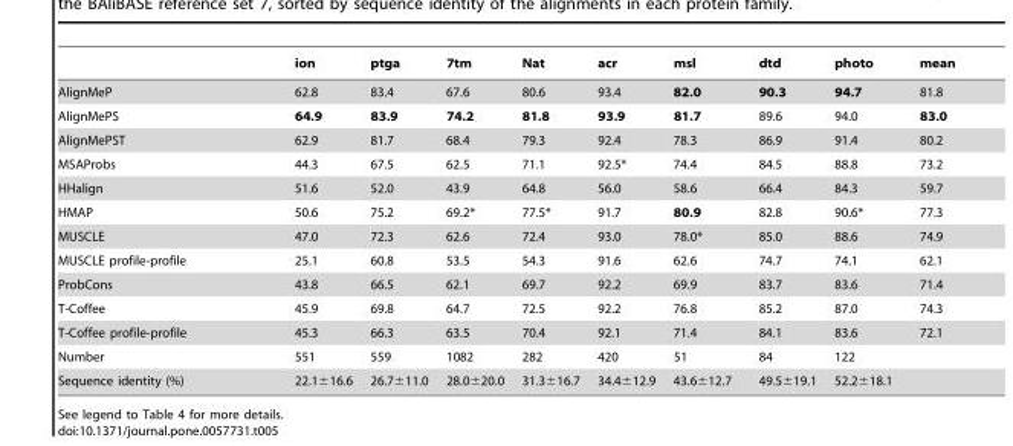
<table><thead><tr><td></td><td>ion</td><td>ptga</td><td>7tm</td><td>Nat</td><td>acr</td><td>msl</td><td>dtd</td><td>photo</td><td>mean</td></tr></thead><tbody><tr><td>AlignMeP</td><td>62.8</td><td>83.4</td><td>67.6</td><td>80.6</td><td>93.4</td><td>82.0</td><td>90.3</td><td>94.7</td><td>81.8</td></tr><tr><td>AlignMePS</td><td>64.9</td><td>83.9</td><td>74.2</td><td>81.8</td><td>93.9</td><td>81.7</td><td>89.6</td><td>94.0</td><td>83.0</td></tr><tr><td>AlignMePST</td><td>62.9</td><td>81.7</td><td>68.4</td><td>79.3</td><td>92.4</td><td>78.3</td><td>86.9</td><td>91.4</td><td>80.2</td></tr><tr><td>MSAProbs</td><td>44.3</td><td>67.5</td><td>62.5</td><td>71.1</td><td>92.5*</td><td>74.4</td><td>84.5</td><td>88.8</td><td>73.2</td></tr><tr><td>HHalign</td><td>51.6</td><td>52.0</td><td>43.9</td><td>64.8</td><td>56.0</td><td>58.6</td><td>66.4</td><td>84.3</td><td>59.7</td></tr><tr><td>HMAP</td><td>50.6</td><td>75.2</td><td>69.2*</td><td>77.5*</td><td>91.7</td><td>80.9</td><td>82.8</td><td>90.6*</td><td>77.3</td></tr><tr><td>MUSCLE</td><td>47.0</td><td>72.3</td><td>62.6</td><td>72.4</td><td>93.0</td><td>78.0*</td><td>85.0</td><td>88.6</td><td>74.9</td></tr><tr><td>MUSCLE profile-profile</td><td>25.1</td><td>60.8</td><td>53.5</td><td>54.3</td><td>91.6</td><td>62.6</td><td>74.7</td><td>74.1</td><td>62.1</td></tr><tr><td>ProbCons</td><td>43.8</td><td>66.5</td><td>62.1</td><td>69.7</td><td>92.2</td><td>69.9</td><td>83.7</td><td>83.6</td><td>71.4</td></tr><tr><td>T-Coffee</td><td>45.9</td><td>69.8</td><td>64.7</td><td>72.5</td><td>92.2</td><td>76.8</td><td>85.2</td><td>87.0</td><td>74.3</td></tr><tr><td>T-Coffee profile-profile</td><td>45.3</td><td>66.3</td><td>63.5</td><td>70.4</td><td>92.1</td><td>71.4</td><td>84.1</td><td>83.6</td><td>72.1</td></tr><tr><td>Number</td><td>551</td><td>559</td><td>1082</td><td>282</td><td>420</td><td>51</td><td>84</td><td>122</td><td></td></tr><tr><td>Sequence identity (%)</td><td>22.1±16.6</td><td>26.7±11.0</td><td>28.0±20.0</td><td>31.3±16.7</td><td>34.4±12.9</td><td>43.6±12.7</td><td>49.5±19.1</td><td>52.2±18.1</td><td></td></tr></tbody></table>